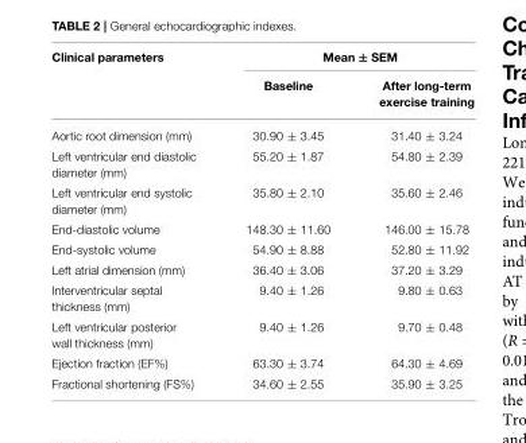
<table><thead><tr><td rowspan="2">Clinical parameters</td><td colspan="2">Mean ± SEM</td></tr><tr><td>Baseline</td><td>After long-term exercise training</td></tr></thead><tbody><tr><td>Aortic root dimension (mm)</td><td>30.90 ± 3.45</td><td>31.40 ± 3.24</td></tr><tr><td>Left ventricular end diastolic diameter (mm)</td><td>55.20 ± 1.87</td><td>54.80 ± 2.39</td></tr><tr><td>Left ventricular end systolic diameter (mm)</td><td>35.80 ± 2.10</td><td>35.60 ± 2.46</td></tr><tr><td>End-diastolic volume</td><td>148.30 ± 11.60</td><td>146.00 ± 15.78</td></tr><tr><td>End-systolic volume</td><td>54.90 ± 8.88</td><td>52.80 ± 11.92</td></tr><tr><td>Left atrial dimension (mm)</td><td>36.40 ± 3.06</td><td>37.20 ± 3.29</td></tr><tr><td>Interventricular septal thickness (mm)</td><td>9.40 ± 1.26</td><td>9.80 ± 0.63</td></tr><tr><td>Left ventricular posterior wall thickness (mm)</td><td>9.40 ± 1.26</td><td>9.70 ± 0.48</td></tr><tr><td>Ejection fraction (EF%)</td><td>63.30 ± 3.74</td><td>64.30 ± 4.69</td></tr><tr><td>Fractional shortening (FS%)</td><td>34.60 ± 2.55</td><td>35.90 ± 3.25</td></tr></tbody></table>